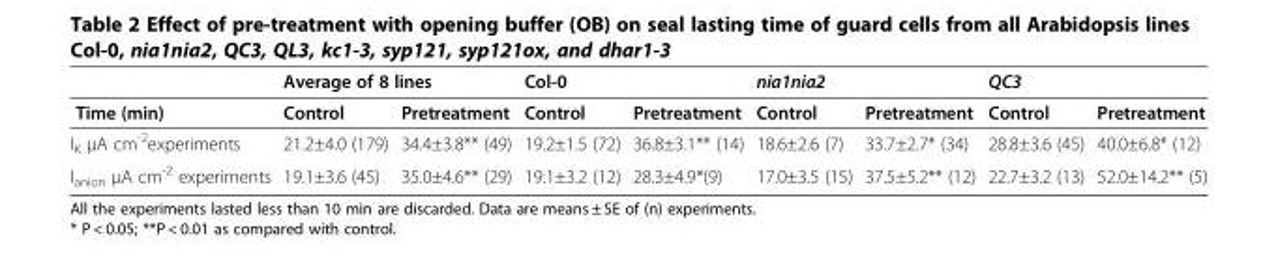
<table><thead><tr><td rowspan="2">Time (min)</td><td colspan="2">Average of 8 lines</td><td colspan="2">Col-0</td><td colspan="2">nia1nia2</td><td colspan="2">QC3</td></tr><tr><td>Control</td><td>Pretreatment</td><td>Control</td><td>Pretreatment</td><td>Control</td><td>Pretreatment</td><td>Control</td><td>Pretreatment</td></tr></thead><tbody><tr><td>I<sub>K</sub> μA cm<sup>-2</sup>experiments</td><td>21.2±4.0 (179)</td><td>34.4±3.8** (49)</td><td>19.2±1.5 (72)</td><td>36.8±3.1** (14)</td><td>18.6±2.6 (7)</td><td>33.7±2.7* (34)</td><td>28.8±3.6 (45)</td><td>40.0±6.8* (12)</td></tr><tr><td>I<sub>anion</sub> μA cm<sup>-2</sup> experiments</td><td>19.1±3.6 (45)</td><td>35.0±4.6** (29)</td><td>19.1±3.2 (12)</td><td>28.3±4.9*(9)</td><td>17.0±3.5 (15)</td><td>37.5±5.2** (12)</td><td>22.7±3.2 (13)</td><td>52.0±14.2** (5)</td></tr></tbody></table>